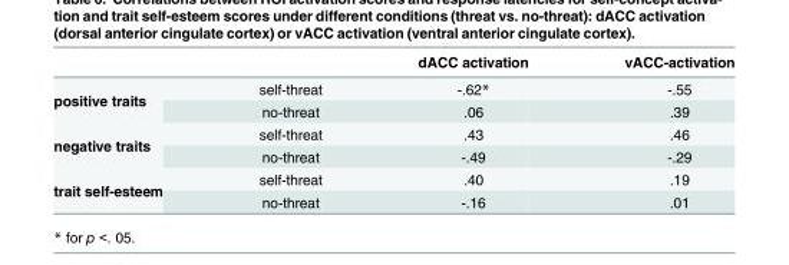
<table><thead><tr><td></td><td></td><td>dACC activation</td><td>vACC-activation</td></tr></thead><tbody><tr><td rowspan="2">positive traits</td><td>self-threat</td><td>-.62*</td><td>-.55</td></tr><tr><td>no-threat</td><td>.06</td><td>.39</td></tr><tr><td rowspan="2">negative traits</td><td>self-threat</td><td>.43</td><td>.46</td></tr><tr><td>no-threat</td><td>-.49</td><td>-.29</td></tr><tr><td rowspan="2">trait self-esteem</td><td>self-threat</td><td>.40</td><td>.19</td></tr><tr><td>no-threat</td><td>-.16</td><td>.01</td></tr></tbody></table>